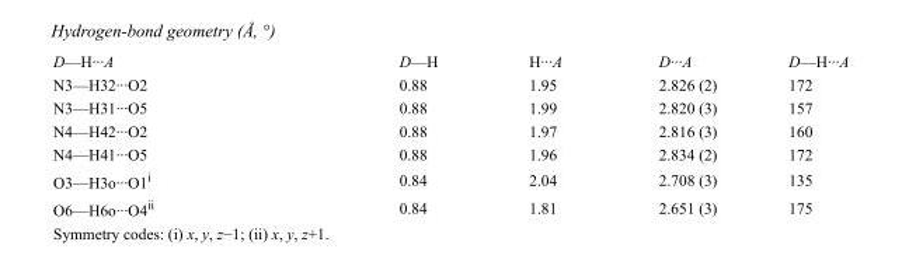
<table><tbody><tr><td>D—H···A</td><td>D—H</td><td>H···A</td><td>D···A</td><td>D—H···A</td></tr><tr><td>N3—H32···O2</td><td>0.88</td><td>1.95</td><td>2.826 (2)</td><td>172</td></tr><tr><td>N3—H31···O5</td><td>0.88</td><td>1.99</td><td>2.820 (3)</td><td>157</td></tr><tr><td>N4—H42···O2</td><td>0.88</td><td>1.97</td><td>2.816 (3)</td><td>160</td></tr><tr><td>N4—H41···O5</td><td>0.88</td><td>1.96</td><td>2.834 (2)</td><td>172</td></tr><tr><td>O3—H3o···O1<sup>i</sup></td><td>0.84</td><td>2.04</td><td>2.708 (3)</td><td>135</td></tr><tr><td>O6—H6o···O4<sup>ii</sup></td><td>0.84</td><td>1.81</td><td>2.651 (3)</td><td>175</td></tr></tbody></table>